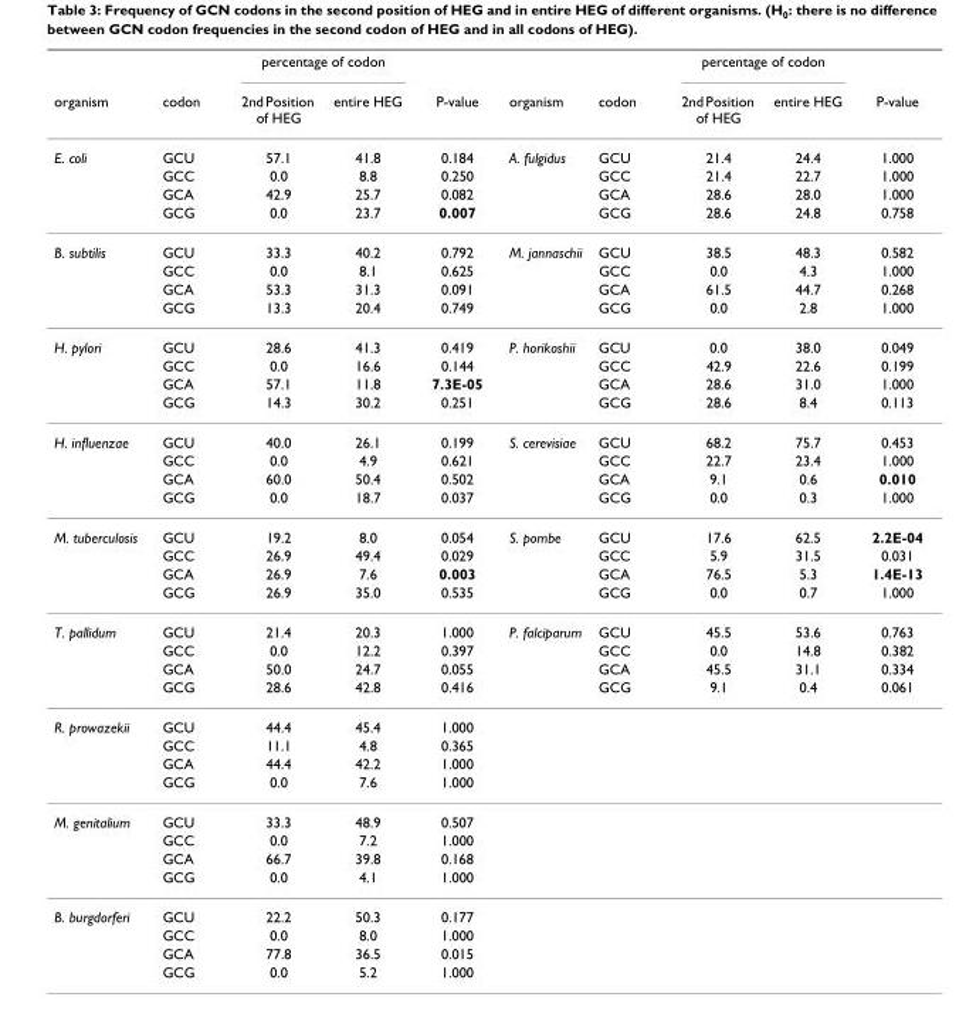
<table><thead><tr><td rowspan="2">organism</td><td rowspan="2">codon</td><td colspan="2">percentage of codon</td><td rowspan="2">P-value</td><td rowspan="2">organism</td><td rowspan="2">codon</td><td colspan="2">percentage of codon</td><td rowspan="2">P-value</td></tr><tr><td>2nd Position of HEG</td><td>entire HEG</td><td>2nd Position of HEG</td><td>entire HEG</td></tr></thead><tbody><tr><td rowspan="4">E. coli</td><td>GCU</td><td>57.1</td><td>41.8</td><td>0.184</td><td>A. fulgidus</td><td>GCU</td><td>21.4</td><td>24.4</td><td>1.000</td></tr><tr><td>GCC</td><td>0.0</td><td>8.8</td><td>0.250</td><td></td><td>GCC</td><td>21.4</td><td>22.7</td><td>1.000</td></tr><tr><td>GCA</td><td>42.9</td><td>25.7</td><td>0.082</td><td></td><td>GCA</td><td>28.6</td><td>28.0</td><td>1.000</td></tr><tr><td>GCG</td><td>0.0</td><td>23.7</td><td>0.007</td><td></td><td>GCG</td><td>28.6</td><td>24.8</td><td>0.758</td></tr><tr><td rowspan="4">B. subtilis</td><td>GCU</td><td>33.3</td><td>40.2</td><td>0.792</td><td>M. jannaschii</td><td>GCU</td><td>38.5</td><td>48.3</td><td>0.582</td></tr><tr><td>GCC</td><td>0.0</td><td>8.1</td><td>0.625</td><td></td><td>GCC</td><td>0.0</td><td>4.3</td><td>1.000</td></tr><tr><td>GCA</td><td>53.3</td><td>31.3</td><td>0.091</td><td></td><td>GCA</td><td>61.5</td><td>44.7</td><td>0.268</td></tr><tr><td>GCG</td><td>13.3</td><td>20.4</td><td>0.749</td><td></td><td>GCG</td><td>0.0</td><td>2.8</td><td>1.000</td></tr><tr><td rowspan="4">H. pylori</td><td>GCU</td><td>28.6</td><td>41.3</td><td>0.419</td><td>P. horikoshii</td><td>GCU</td><td>0.0</td><td>38.0</td><td>0.049</td></tr><tr><td>GCC</td><td>0.0</td><td>16.6</td><td>0.144</td><td></td><td>GCC</td><td>42.9</td><td>22.6</td><td>0.199</td></tr><tr><td>GCA</td><td>57.1</td><td>11.8</td><td>7.3E-05</td><td></td><td>GCA</td><td>28.6</td><td>31.0</td><td>1.000</td></tr><tr><td>GCG</td><td>14.3</td><td>30.2</td><td>0.251</td><td></td><td>GCG</td><td>28.6</td><td>8.4</td><td>0.113</td></tr><tr><td rowspan="4">H. influenzae</td><td>GCU</td><td>40.0</td><td>26.1</td><td>0.199</td><td>S. cerevisiae</td><td>GCU</td><td>68.2</td><td>75.7</td><td>0.453</td></tr><tr><td>GCC</td><td>0.0</td><td>4.9</td><td>0.621</td><td></td><td>GCC</td><td>22.7</td><td>23.4</td><td>1.000</td></tr><tr><td>GCA</td><td>60.0</td><td>50.4</td><td>0.502</td><td></td><td>GCA</td><td>9.1</td><td>0.6</td><td>0.010</td></tr><tr><td>GCG</td><td>0.0</td><td>18.7</td><td>0.037</td><td></td><td>GCG</td><td>0.0</td><td>0.3</td><td>1.000</td></tr><tr><td rowspan="4">M. tuberculosis</td><td>GCU</td><td>19.2</td><td>8.0</td><td>0.054</td><td>S. pombe</td><td>GCU</td><td>17.6</td><td>62.5</td><td>2.2E-04</td></tr><tr><td>GCC</td><td>26.9</td><td>49.4</td><td>0.029</td><td></td><td>GCC</td><td>5.9</td><td>31.5</td><td>0.031</td></tr><tr><td>GCA</td><td>26.9</td><td>7.6</td><td>0.003</td><td></td><td>GCA</td><td>76.5</td><td>5.3</td><td>1.4E-13</td></tr><tr><td>GCG</td><td>26.9</td><td>35.0</td><td>0.535</td><td></td><td>GCG</td><td>0.0</td><td>0.7</td><td>1.000</td></tr><tr><td rowspan="4">T. pallidum</td><td>GCU</td><td>21.4</td><td>20.3</td><td>1.000</td><td>P. falciparum</td><td>GCU</td><td>45.5</td><td>53.6</td><td>0.763</td></tr><tr><td>GCC</td><td>0.0</td><td>12.2</td><td>0.397</td><td></td><td>GCC</td><td>0.0</td><td>14.8</td><td>0.382</td></tr><tr><td>GCA</td><td>50.0</td><td>24.7</td><td>0.055</td><td></td><td>GCA</td><td>45.5</td><td>31.1</td><td>0.334</td></tr><tr><td>GCG</td><td>28.6</td><td>42.8</td><td>0.416</td><td></td><td>GCG</td><td>9.1</td><td>0.4</td><td>0.061</td></tr><tr><td rowspan="4">R. prowazekii</td><td>GCU</td><td>44.4</td><td>45.4</td><td>1.000</td><td></td><td></td><td></td><td></td><td></td></tr><tr><td>GCC</td><td>11.1</td><td>4.8</td><td>0.365</td><td></td><td></td><td></td><td></td><td></td></tr><tr><td>GCA</td><td>44.4</td><td>42.2</td><td>1.000</td><td></td><td></td><td></td><td></td><td></td></tr><tr><td>GCG</td><td>0.0</td><td>7.6</td><td>1.000</td><td></td><td></td><td></td><td></td><td></td></tr><tr><td rowspan="4">M. genitalium</td><td>GCU</td><td>33.3</td><td>48.9</td><td>0.507</td><td></td><td></td><td></td><td></td><td></td></tr><tr><td>GCC</td><td>0.0</td><td>7.2</td><td>1.000</td><td></td><td></td><td></td><td></td><td></td></tr><tr><td>GCA</td><td>66.7</td><td>39.8</td><td>0.168</td><td></td><td></td><td></td><td></td><td></td></tr><tr><td>GCG</td><td>0.0</td><td>4.1</td><td>1.000</td><td></td><td></td><td></td><td></td><td></td></tr><tr><td rowspan="4">B. burgdorferi</td><td>GCU</td><td>22.2</td><td>50.3</td><td>0.177</td><td></td><td></td><td></td><td></td><td></td></tr><tr><td>GCC</td><td>0.0</td><td>8.0</td><td>1.000</td><td></td><td></td><td></td><td></td><td></td></tr><tr><td>GCA</td><td>77.8</td><td>36.5</td><td>0.015</td><td></td><td></td><td></td><td></td><td></td></tr><tr><td>GCG</td><td>0.0</td><td>5.2</td><td>1.000</td><td></td><td></td><td></td><td></td><td></td></tr></tbody></table>